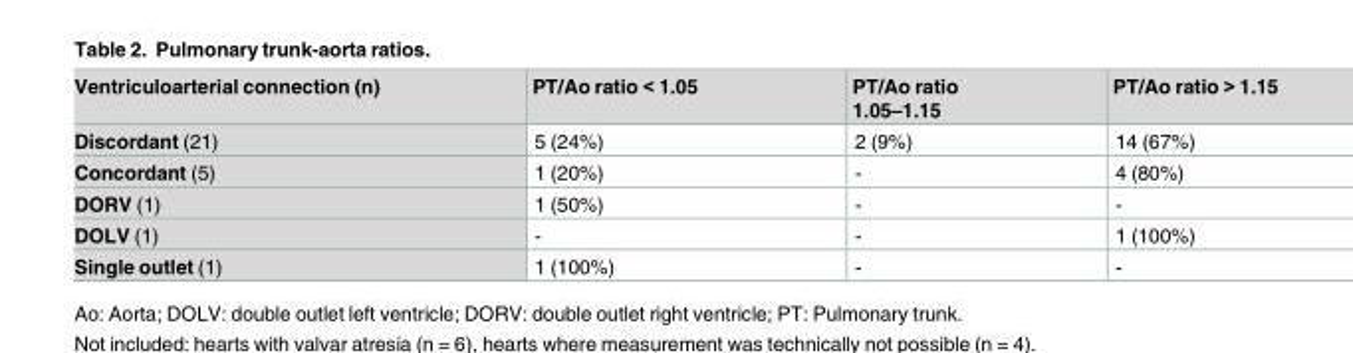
<table><thead><tr><td>Ventriculoarterial connection (n)</td><td>PT/Ao ratio &lt; 1.05</td><td>PT/Ao ratio 1.05–1.15</td><td>PT/Ao ratio &gt; 1.15</td></tr></thead><tbody><tr><td>Discordant (21)</td><td>5 (24%)</td><td>2 (9%)</td><td>14 (67%)</td></tr><tr><td>Concordant (5)</td><td>1 (20%)</td><td>-</td><td>4 (80%)</td></tr><tr><td>DORV (1)</td><td>1 (50%)</td><td>-</td><td>-</td></tr><tr><td>DOLV (1)</td><td>-</td><td>-</td><td>1 (100%)</td></tr><tr><td>Single outlet (1)</td><td>1 (100%)</td><td>-</td><td>-</td></tr></tbody></table>